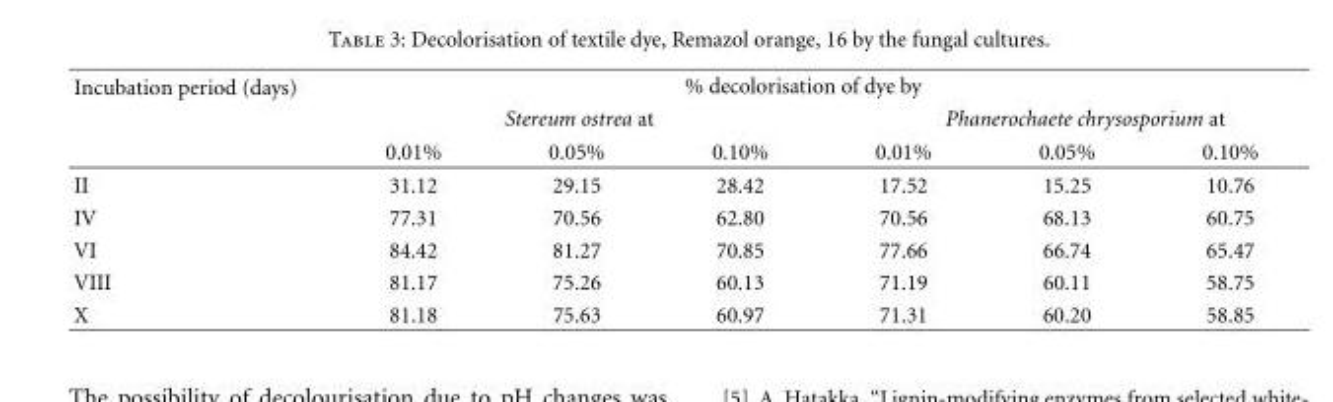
<table><thead><tr><td rowspan="3">Incubation period (days)</td><td colspan="6">% decolorisation of dye by</td></tr><tr><td colspan="3">Stereum ostrea at</td><td colspan="3">Phanerochaete chrysosporium at</td></tr><tr><td>0.01%</td><td>0.05%</td><td>0.10%</td><td>0.01%</td><td>0.05%</td><td>0.10%</td></tr></thead><tbody><tr><td>II</td><td>31.12</td><td>29.15</td><td>28.42</td><td>17.52</td><td>15.25</td><td>10.76</td></tr><tr><td>IV</td><td>77.31</td><td>70.56</td><td>62.80</td><td>70.56</td><td>68.13</td><td>60.75</td></tr><tr><td>VI</td><td>84.42</td><td>81.27</td><td>70.85</td><td>77.66</td><td>66.74</td><td>65.47</td></tr><tr><td>VIII</td><td>81.17</td><td>75.26</td><td>60.13</td><td>71.19</td><td>60.11</td><td>58.75</td></tr><tr><td>X</td><td>81.18</td><td>75.63</td><td>60.97</td><td>71.31</td><td>60.20</td><td>58.85</td></tr></tbody></table>